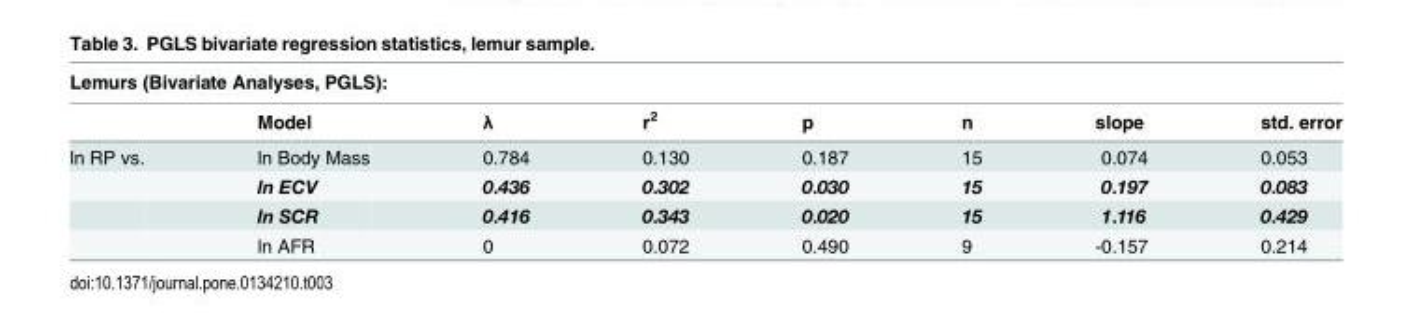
<table><thead><tr><td colspan="8">Lemurs (Bivariate Analyses, PGLS):</td></tr><tr><td></td><td>Model</td><td>λ</td><td>r<sup>2</sup></td><td>p</td><td>n</td><td>slope</td><td>std. error</td></tr></thead><tbody><tr><td rowspan="4">ln RP vs.</td><td>ln Body Mass</td><td>0.784</td><td>0.130</td><td>0.187</td><td>15</td><td>0.074</td><td>0.053</td></tr><tr><td>ln ECV</td><td>0.436</td><td>0.302</td><td>0.030</td><td>15</td><td>0.197</td><td>0.083</td></tr><tr><td>ln SCR</td><td>0.416</td><td>0.343</td><td>0.020</td><td>15</td><td>1.116</td><td>0.429</td></tr><tr><td>ln AFR</td><td>0</td><td>0.072</td><td>0.490</td><td>9</td><td>-0.157</td><td>0.214</td></tr></tbody></table>